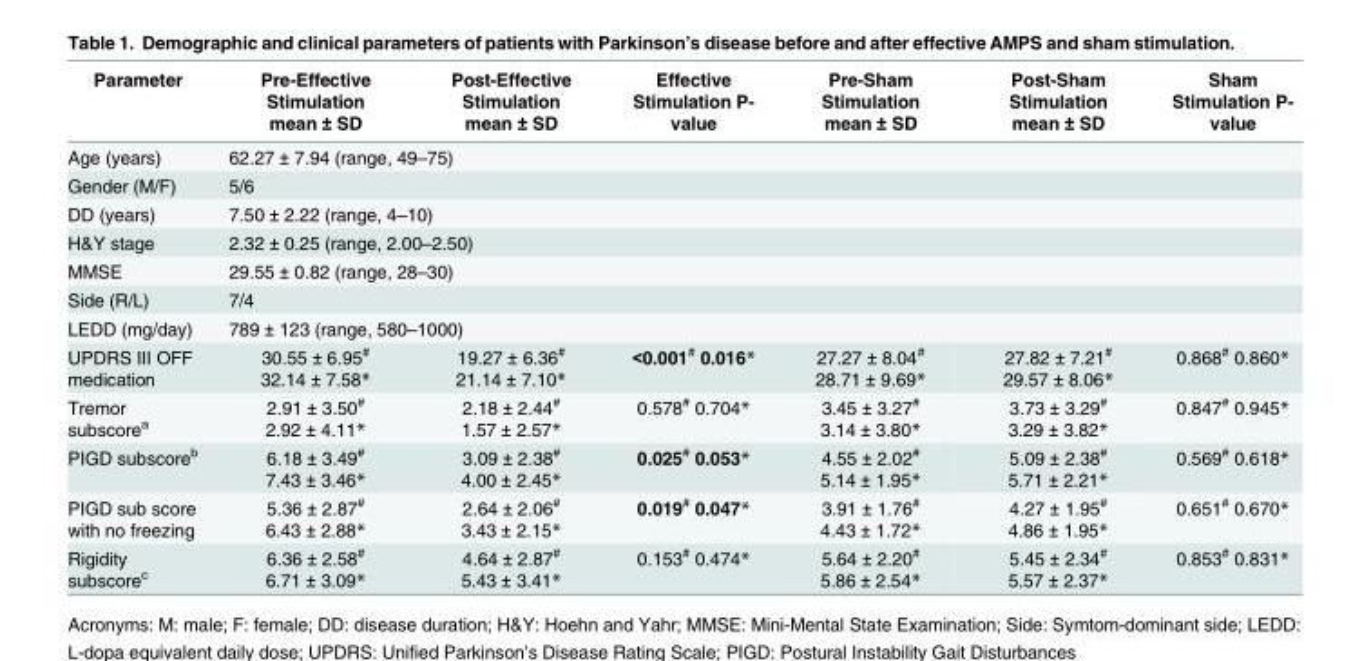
<table><thead><tr><td>Parameter</td><td>Pre-Effective Stimulation mean ± SD</td><td>Post-Effective Stimulation mean ± SD</td><td>Effective Stimulation P- value</td><td>Pre-Sham Stimulation mean ± SD</td><td>Post-Sham Stimulation mean ± SD</td><td>Sham Stimulation P- value</td></tr></thead><tbody><tr><td>Age (years)</td><td colspan="6">62.27 ± 7.94 (range, 49–75)</td></tr><tr><td>Gender (M/F)</td><td colspan="6">5/6</td></tr><tr><td>DD (years)</td><td colspan="6">7.50 ± 2.22 (range, 4–10)</td></tr><tr><td>H&amp;Y stage</td><td colspan="6">2.32 ± 0.25 (range, 2.00–2.50)</td></tr><tr><td>MMSE</td><td colspan="6">29.55 ± 0.82 (range, 28–30)</td></tr><tr><td>Side (R/L)</td><td colspan="6">7/4</td></tr><tr><td>LEDD (mg/day)</td><td colspan="6">789 ± 123 (range, 580–1000)</td></tr><tr><td>UPDRS III OFF medication</td><td>30.55 ± 6.95<sup>#</sup> 32.14 ± 7.58*</td><td>19.27 ± 6.36<sup>#</sup> 21.14 ± 7.10*</td><td>&lt;0.001<sup>#</sup> 0.016*</td><td>27.27 ± 8.04<sup>#</sup> 28.71 ± 9.69*</td><td>27.82 ± 7.21<sup>#</sup> 29.57 ± 8.06*</td><td>0.868<sup>#</sup> 0.860*</td></tr><tr><td>Tremor subscore<sup>a</sup></td><td>2.91 ± 3.50<sup>#</sup> 2.92 ± 4.11*</td><td>2.18 ± 2.44<sup>#</sup> 1.57 ± 2.57*</td><td>0.578<sup>#</sup> 0.704*</td><td>3.45 ± 3.27<sup>#</sup> 3.14 ± 3.80*</td><td>3.73 ± 3.29<sup>#</sup> 3.29 ± 3.82*</td><td>0.847<sup>#</sup> 0.945*</td></tr><tr><td>PIGD subscore<sup>b</sup></td><td>6.18 ± 3.49<sup>#</sup> 7.43 ± 3.46*</td><td>3.09 ± 2.38<sup>#</sup> 4.00 ± 2.45*</td><td>0.025<sup>#</sup> 0.053*</td><td>4.55 ± 2.02<sup>#</sup> 5.14 ± 1.95*</td><td>5.09 ± 2.38<sup>#</sup> 5.71 ± 2.21*</td><td>0.569<sup>#</sup> 0.618*</td></tr><tr><td>PIGD sub score with no freezing</td><td>5.36 ± 2.87<sup>#</sup> 6.43 ± 2.88*</td><td>2.64 ± 2.06<sup>#</sup> 3.43 ± 2.15*</td><td>0.019<sup>#</sup> 0.047*</td><td>3.91 ± 1.76<sup>#</sup> 4.43 ± 1.72*</td><td>4.27 ± 1.95<sup>#</sup> 4.86 ± 1.95*</td><td>0.651<sup>#</sup> 0.670*</td></tr><tr><td>Rigidity subscore<sup>c</sup></td><td>6.36 ± 2.58<sup>#</sup> 6.71 ± 3.09*</td><td>4.64 ± 2.87<sup>#</sup> 5.43 ± 3.41*</td><td>0.153<sup>#</sup> 0.474*</td><td>5.64 ± 2.20<sup>#</sup> 5.86 ± 2.54*</td><td>5.45 ± 2.34<sup>#</sup> 5.57 ± 2.37*</td><td>0.853<sup>#</sup> 0.831*</td></tr></tbody></table>